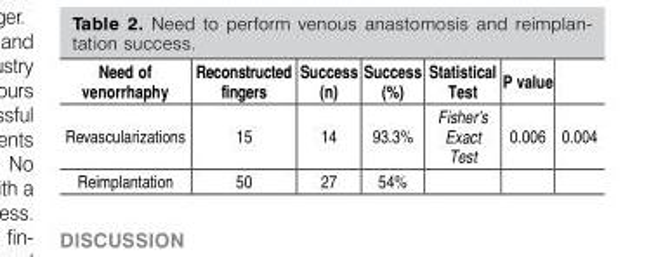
<table><thead><tr><td>Need of venorrhaphy</td><td>Reconstructed fingers</td><td>Success (n)</td><td>Success (%)</td><td>Statistical Test</td><td>P value</td><td></td></tr></thead><tbody><tr><td>Revascularizations</td><td>15</td><td>14</td><td>93.3%</td><td>Fisher&#x27;s Exact Test</td><td>0.006</td><td>0.004</td></tr><tr><td>Reimplantation</td><td>50</td><td>27</td><td>54%</td><td></td><td></td><td></td></tr></tbody></table>